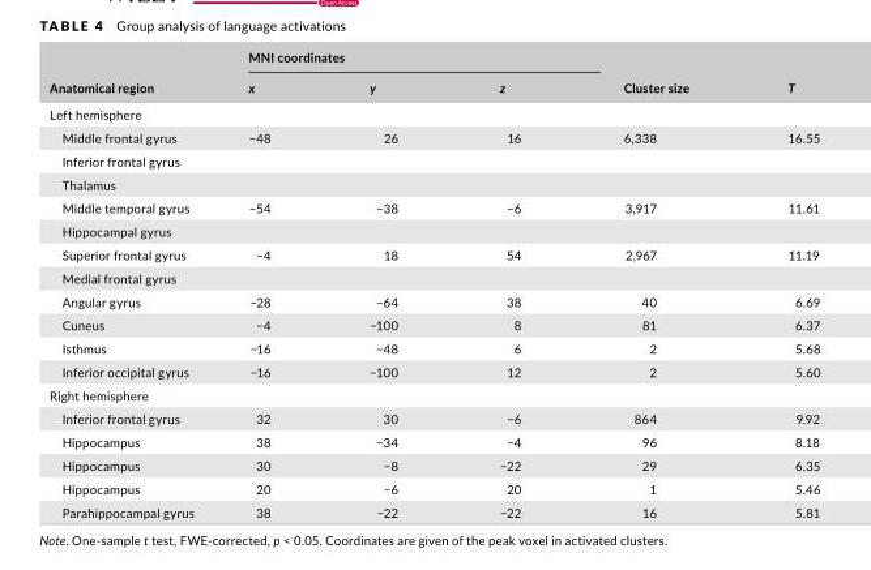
<table><thead><tr><td rowspan="2">Anatomical region</td><td colspan="3">MNI coordinates</td><td rowspan="2">Cluster size</td><td rowspan="2">T</td></tr><tr><td>x</td><td>y</td><td>z</td></tr></thead><tbody><tr><td colspan="6">Left hemisphere</td></tr><tr><td>Middle frontal gyrus</td><td>−48</td><td>26</td><td>16</td><td>6,338</td><td>16.55</td></tr><tr><td colspan="6">Inferior frontal gyrus</td></tr><tr><td colspan="6">Thalamus</td></tr><tr><td>Middle temporal gyrus</td><td>−54</td><td>−38</td><td>−6</td><td>3,917</td><td>11.61</td></tr><tr><td colspan="6">Hippocampal gyrus</td></tr><tr><td>Superior frontal gyrus</td><td>−4</td><td>18</td><td>54</td><td>2,967</td><td>11.19</td></tr><tr><td colspan="6">Medial frontal gyrus</td></tr><tr><td>Angular gyrus</td><td>−28</td><td>−64</td><td>38</td><td>40</td><td>6.69</td></tr><tr><td>Cuneus</td><td>−4</td><td>−100</td><td>8</td><td>81</td><td>6.37</td></tr><tr><td>Isthmus</td><td>−16</td><td>−48</td><td>6</td><td>2</td><td>5.68</td></tr><tr><td>Inferior occipital gyrus</td><td>−16</td><td>−100</td><td>12</td><td>2</td><td>5.60</td></tr><tr><td colspan="6">Right hemisphere</td></tr><tr><td>Inferior frontal gyrus</td><td>32</td><td>30</td><td>−6</td><td>864</td><td>9.92</td></tr><tr><td>Hippocampus</td><td>38</td><td>−34</td><td>−4</td><td>96</td><td>8.18</td></tr><tr><td>Hippocampus</td><td>30</td><td>−8</td><td>−22</td><td>29</td><td>6.35</td></tr><tr><td>Hippocampus</td><td>20</td><td>−6</td><td>20</td><td>1</td><td>5.46</td></tr><tr><td>Parahippocampal gyrus</td><td>38</td><td>−22</td><td>−22</td><td>16</td><td>5.81</td></tr></tbody></table>